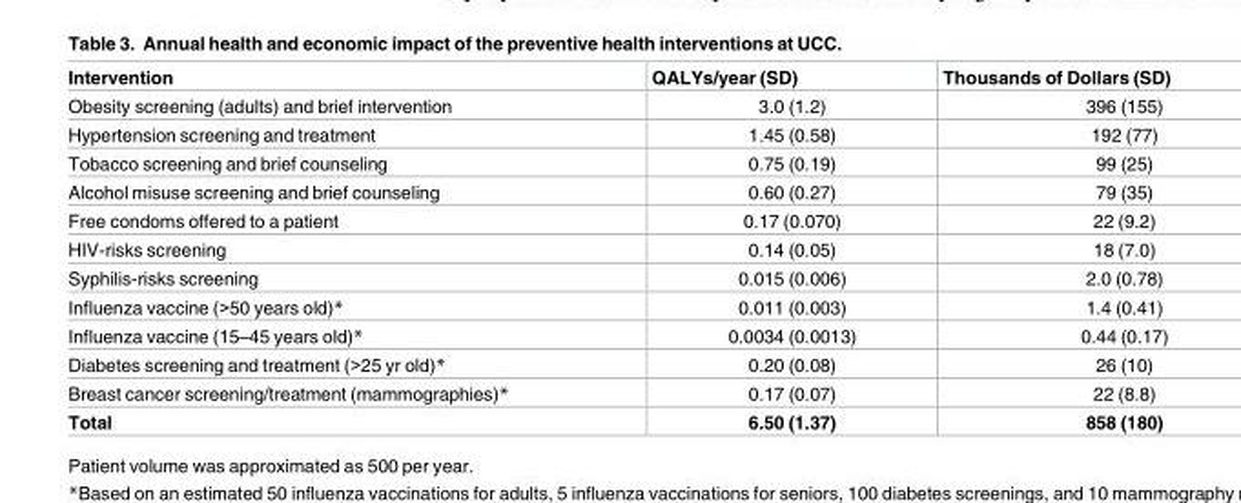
<table><thead><tr><td>Intervention</td><td>QALYs/year (SD)</td><td>Thousands of Dollars (SD)</td></tr></thead><tbody><tr><td>Obesity screening (adults) and brief intervention</td><td>3.0 (1.2)</td><td>396 (155)</td></tr><tr><td>Hypertension screening and treatment</td><td>1.45 (0.58)</td><td>192 (77)</td></tr><tr><td>Tobacco screening and brief counseling</td><td>0.75 (0.19)</td><td>99 (25)</td></tr><tr><td>Alcohol misuse screening and brief counseling</td><td>0.60 (0.27)</td><td>79 (35)</td></tr><tr><td>Free condoms offered to a patient</td><td>0.17 (0.070)</td><td>22 (9.2)</td></tr><tr><td>HIV-risks screening</td><td>0.14 (0.05)</td><td>18 (7.0)</td></tr><tr><td>Syphilis-risks screening</td><td>0.015 (0.006)</td><td>2.0 (0.78)</td></tr><tr><td>Influenza vaccine (&gt;50 years old)*</td><td>0.011 (0.003)</td><td>1.4 (0.41)</td></tr><tr><td>Influenza vaccine (15–45 years old)*</td><td>0.0034 (0.0013)</td><td>0.44 (0.17)</td></tr><tr><td>Diabetes screening and treatment (&gt;25 yr old)*</td><td>0.20 (0.08)</td><td>26 (10)</td></tr><tr><td>Breast cancer screening/treatment (mammographies)*</td><td>0.17 (0.07)</td><td>22 (8.8)</td></tr><tr><td>Total</td><td>6.50 (1.37)</td><td>858 (180)</td></tr></tbody></table>